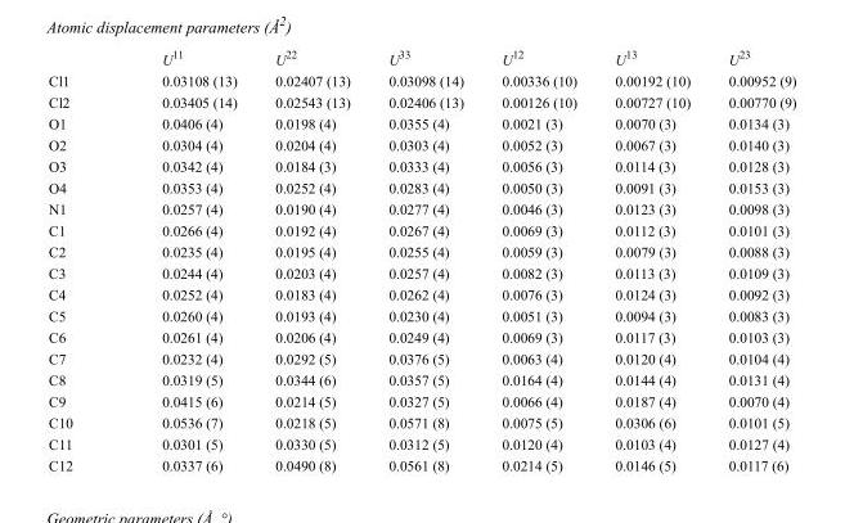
<table><thead><tr><td></td><td>U<sup>11</sup></td><td>U<sup>22</sup></td><td>U<sup>33</sup></td><td>U<sup>12</sup></td><td>U<sup>13</sup></td><td>U<sup>23</sup></td></tr></thead><tbody><tr><td>Cl1</td><td>0.03108 (13)</td><td>0.02407 (13)</td><td>0.03098 (14)</td><td>0.00336 (10)</td><td>0.00192 (10)</td><td>0.00952 (9)</td></tr><tr><td>Cl2</td><td>0.03405 (14)</td><td>0.02543 (13)</td><td>0.02406 (13)</td><td>0.00126 (10)</td><td>0.00727 (10)</td><td>0.00770 (9)</td></tr><tr><td>O1</td><td>0.0406 (4)</td><td>0.0198 (4)</td><td>0.0355 (4)</td><td>0.0021 (3)</td><td>0.0070 (3)</td><td>0.0134 (3)</td></tr><tr><td>O2</td><td>0.0304 (4)</td><td>0.0204 (4)</td><td>0.0303 (4)</td><td>0.0052 (3)</td><td>0.0067 (3)</td><td>0.0140 (3)</td></tr><tr><td>O3</td><td>0.0342 (4)</td><td>0.0184 (3)</td><td>0.0333 (4)</td><td>0.0056 (3)</td><td>0.0114 (3)</td><td>0.0128 (3)</td></tr><tr><td>O4</td><td>0.0353 (4)</td><td>0.0252 (4)</td><td>0.0283 (4)</td><td>0.0050 (3)</td><td>0.0091 (3)</td><td>0.0153 (3)</td></tr><tr><td>N1</td><td>0.0257 (4)</td><td>0.0190 (4)</td><td>0.0277 (4)</td><td>0.0046 (3)</td><td>0.0123 (3)</td><td>0.0098 (3)</td></tr><tr><td>C1</td><td>0.0266 (4)</td><td>0.0192 (4)</td><td>0.0267 (4)</td><td>0.0069 (3)</td><td>0.0112 (3)</td><td>0.0101 (3)</td></tr><tr><td>C2</td><td>0.0235 (4)</td><td>0.0195 (4)</td><td>0.0255 (4)</td><td>0.0059 (3)</td><td>0.0079 (3)</td><td>0.0088 (3)</td></tr><tr><td>C3</td><td>0.0244 (4)</td><td>0.0203 (4)</td><td>0.0257 (4)</td><td>0.0082 (3)</td><td>0.0113 (3)</td><td>0.0109 (3)</td></tr><tr><td>C4</td><td>0.0252 (4)</td><td>0.0183 (4)</td><td>0.0262 (4)</td><td>0.0076 (3)</td><td>0.0124 (3)</td><td>0.0092 (3)</td></tr><tr><td>C5</td><td>0.0260 (4)</td><td>0.0193 (4)</td><td>0.0230 (4)</td><td>0.0051 (3)</td><td>0.0094 (3)</td><td>0.0083 (3)</td></tr><tr><td>C6</td><td>0.0261 (4)</td><td>0.0206 (4)</td><td>0.0249 (4)</td><td>0.0069 (3)</td><td>0.0117 (3)</td><td>0.0103 (3)</td></tr><tr><td>C7</td><td>0.0232 (4)</td><td>0.0292 (5)</td><td>0.0376 (5)</td><td>0.0063 (4)</td><td>0.0120 (4)</td><td>0.0104 (4)</td></tr><tr><td>C8</td><td>0.0319 (5)</td><td>0.0344 (6)</td><td>0.0357 (5)</td><td>0.0164 (4)</td><td>0.0144 (4)</td><td>0.0131 (4)</td></tr><tr><td>C9</td><td>0.0415 (6)</td><td>0.0214 (5)</td><td>0.0327 (5)</td><td>0.0066 (4)</td><td>0.0187 (4)</td><td>0.0070 (4)</td></tr><tr><td>C10</td><td>0.0536 (7)</td><td>0.0218 (5)</td><td>0.0571 (8)</td><td>0.0075 (5)</td><td>0.0306 (6)</td><td>0.0101 (5)</td></tr><tr><td>C11</td><td>0.0301 (5)</td><td>0.0330 (5)</td><td>0.0312 (5)</td><td>0.0120 (4)</td><td>0.0103 (4)</td><td>0.0127 (4)</td></tr><tr><td>C12</td><td>0.0337 (6)</td><td>0.0490 (8)</td><td>0.0561 (8)</td><td>0.0214 (5)</td><td>0.0146 (5)</td><td>0.0117 (6)</td></tr></tbody></table>